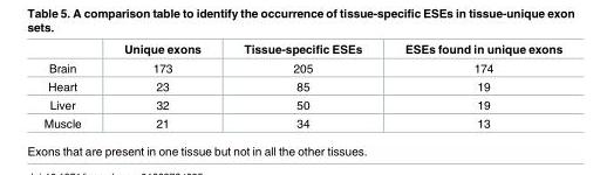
<table><thead><tr><td></td><td>Unique exons</td><td>Tissue-specific ESEs</td><td>ESEs found in unique exons</td></tr></thead><tbody><tr><td>Brain</td><td>173</td><td>205</td><td>174</td></tr><tr><td>Heart</td><td>23</td><td>85</td><td>19</td></tr><tr><td>Liver</td><td>32</td><td>50</td><td>19</td></tr><tr><td>Muscle</td><td>21</td><td>34</td><td>13</td></tr></tbody></table>